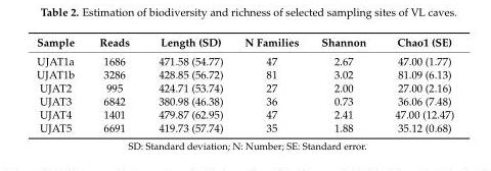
<table><thead><tr><td>Sample</td><td>Reads</td><td>Length (SD)</td><td>N Families</td><td>Shannon</td><td>Chao1 (SE)</td></tr></thead><tbody><tr><td>UJAT1a</td><td>1686</td><td>471.58 (54.77)</td><td>47</td><td>2.67</td><td>47.00 (1.77)</td></tr><tr><td>UJAT1b</td><td>3286</td><td>428.85 (56.72)</td><td>81</td><td>3.02</td><td>81.09 (6.13)</td></tr><tr><td>UJAT2</td><td>995</td><td>424.71 (53.74)</td><td>27</td><td>2.00</td><td>27.00 (2.16)</td></tr><tr><td>UJAT3</td><td>6842</td><td>380.98 (46.38)</td><td>36</td><td>0.73</td><td>36.06 (7.48)</td></tr><tr><td>UJAT4</td><td>1401</td><td>479.87 (62.95)</td><td>47</td><td>2.41</td><td>47.00 (12.47)</td></tr><tr><td>UJAT5</td><td>6691</td><td>419.73 (57.74)</td><td>35</td><td>1.88</td><td>35.12 (0.68)</td></tr></tbody></table>